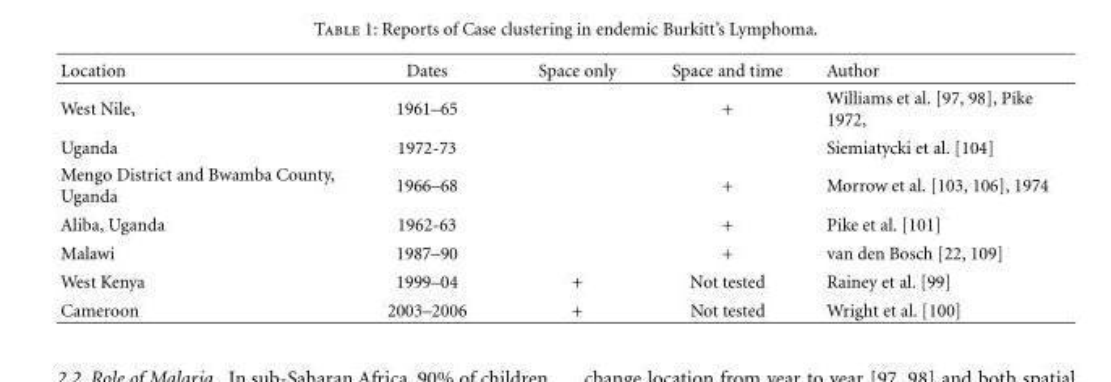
<table><thead><tr><td>Location</td><td>Dates</td><td>Space only</td><td>Space and time</td><td>Author</td></tr></thead><tbody><tr><td>West Nile,</td><td>1961–65</td><td></td><td>+</td><td>Williams et al. [97, 98], Pike 1972,</td></tr><tr><td>Uganda</td><td>1972-73</td><td></td><td></td><td>Siemiatycki et al. [104]</td></tr><tr><td>Mengo District and Bwamba County, Uganda</td><td>1966–68</td><td></td><td>+</td><td>Morrow et al. [103, 106], 1974</td></tr><tr><td>Aliba, Uganda</td><td>1962-63</td><td></td><td>+</td><td>Pike et al. [101]</td></tr><tr><td>Malawi</td><td>1987–90</td><td></td><td>+</td><td>van den Bosch [22, 109]</td></tr><tr><td>West Kenya</td><td>1999–04</td><td>+</td><td>Not tested</td><td>Rainey et al. [99]</td></tr><tr><td>Cameroon</td><td>2003–2006</td><td>+</td><td>Not tested</td><td>Wright et al. [100]</td></tr></tbody></table>